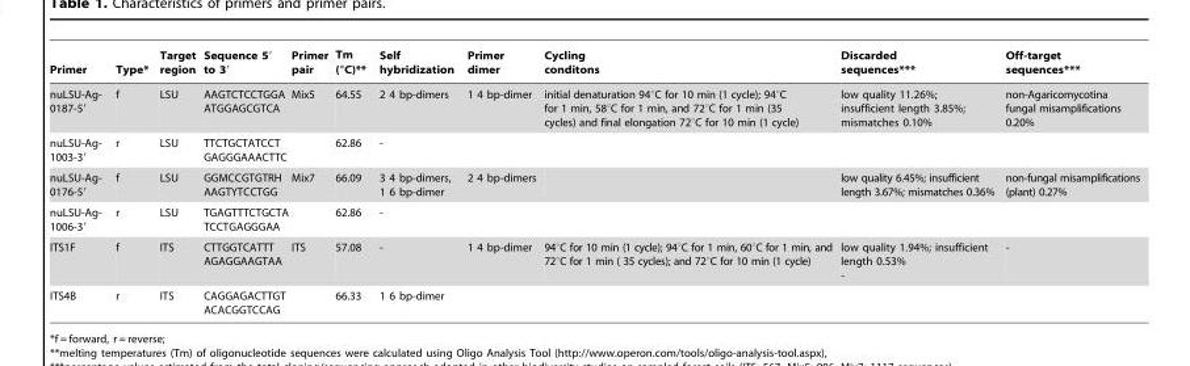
<table><thead><tr><td>Primer</td><td>Type*</td><td>Target region</td><td>Sequence 5′ to 3′</td><td>Primer pair</td><td>Tm (°C)**</td><td>Self hybridization</td><td>Primer dimer</td><td>Cycling conditons</td><td>Discarded sequences***</td><td>Off-target sequences***</td></tr></thead><tbody><tr><td>nuLSU-Ag- 0187-5′</td><td>f</td><td>LSU</td><td>AAGTCTCCTGGA ATGGAGCGTCA</td><td>Mix5</td><td>64.55</td><td>2 4 bp-dimers</td><td>1 4 bp-dimer</td><td>initial denaturation 94°C for 10 min (1 cycle); 94°C for 1 min, 58°C for 1 min, and 72°C for 1 min (35 cycles) and final elongation 72°C for 10 min (1 cycle)</td><td>low quality 11.26%; insufficient length 3.85%; mismatches 0.10%</td><td>non-Agaricomycotina fungal misamplifications 0.20%</td></tr><tr><td>nuLSU-Ag- 1003-3′</td><td>r</td><td>LSU</td><td>TTCTGCTATCCT GAGGGAAACTTC</td><td></td><td>62.86</td><td>-</td><td></td><td></td><td></td><td></td></tr><tr><td>nuLSU-Ag- 0176-5′</td><td>f</td><td>LSU</td><td>GGMCCGTGTRH AAGTYTCCTGG</td><td>Mix7</td><td>66.09</td><td>3 4 bp-dimers, 1 6 bp-dimer</td><td>2 4 bp-dimers</td><td></td><td>low quality 6.45%; insufficient length 3.67%; mismatches 0.36%</td><td>non-fungal misamplifications (plant) 0.27%</td></tr><tr><td>nuLSU-Ag- 1006-3′</td><td>r</td><td>LSU</td><td>TGAGTTTCTGCTA TCCTGAGGGAA</td><td></td><td>62.86</td><td>-</td><td></td><td></td><td></td><td></td></tr><tr><td>ITS1F</td><td>f</td><td>ITS</td><td>CTTGGTCATTT AGAGGAAGTAA</td><td>ITS</td><td>57.08</td><td>-</td><td>1 4 bp-dimer</td><td>94°C for 10 min (1 cycle); 94°C for 1 min, 60°C for 1 min, and 72°C for 1 min ( 35 cycles); and 72°C for 10 min (1 cycle)</td><td>low quality 1.94%; insufficient length 0.53% -</td><td>-</td></tr><tr><td>ITS4B</td><td>r</td><td>ITS</td><td>CAGGAGACTTGT ACACGGTCCAG</td><td></td><td>66.33</td><td>1 6 bp-dimer</td><td></td><td></td><td></td><td></td></tr></tbody></table>